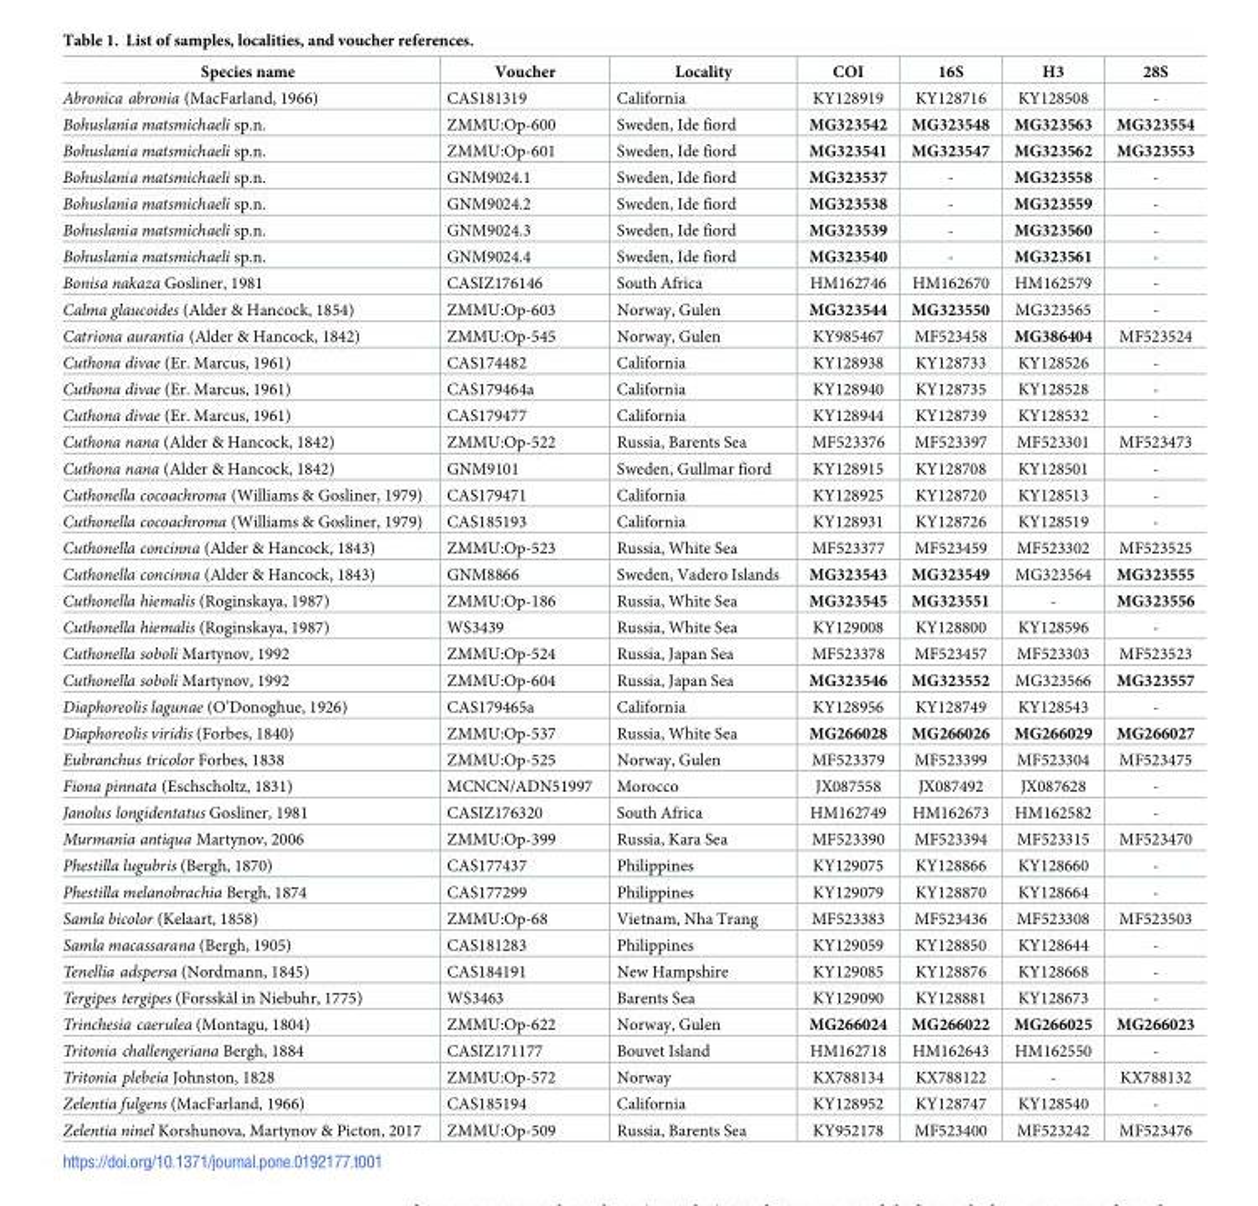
<table><thead><tr><td>Species name</td><td>Voucher</td><td>Locality</td><td>COI</td><td>16S</td><td>H3</td><td>28S</td></tr></thead><tbody><tr><td>Abronica abronia (MacFarland, 1966)</td><td>CAS181319</td><td>California</td><td>KY128919</td><td>KY128716</td><td>KY128508</td><td>-</td></tr><tr><td>Bohuslania matsmichaeli sp.n.</td><td>ZMMU:Op-600</td><td>Sweden, Ide fiord</td><td>MG323542</td><td>MG323548</td><td>MG323563</td><td>MG323554</td></tr><tr><td>Bohuslania matsmichaeli sp.n.</td><td>ZMMU:Op-601</td><td>Sweden, Ide fiord</td><td>MG323541</td><td>MG323547</td><td>MG323562</td><td>MG323553</td></tr><tr><td>Bohuslania matsmichaeli sp.n.</td><td>GNM9024.1</td><td>Sweden, Ide fiord</td><td>MG323537</td><td>-</td><td>MG323558</td><td>-</td></tr><tr><td>Bohuslania matsmichaeli sp.n.</td><td>GNM9024.2</td><td>Sweden, Ide fiord</td><td>MG323538</td><td>-</td><td>MG323559</td><td>-</td></tr><tr><td>Bohuslania matsmichaeli sp.n.</td><td>GNM9024.3</td><td>Sweden, Ide fiord</td><td>MG323539</td><td>-</td><td>MG323560</td><td>-</td></tr><tr><td>Bohuslania matsmichaeli sp.n.</td><td>GNM9024.4</td><td>Sweden, Ide fiord</td><td>MG323540</td><td>-</td><td>MG323561</td><td>-</td></tr><tr><td>Bonisa nakaza Gosliner, 1981</td><td>CASIZ176146</td><td>South Africa</td><td>HM162746</td><td>HM162670</td><td>HM162579</td><td>-</td></tr><tr><td>Calma glaucoides (Alder &amp; Hancock, 1854)</td><td>ZMMU:Op-603</td><td>Norway, Gulen</td><td>MG323544</td><td>MG323550</td><td>MG323565</td><td>-</td></tr><tr><td>Catriona aurantia (Alder &amp; Hancock, 1842)</td><td>ZMMU:Op-545</td><td>Norway, Gulen</td><td>KY985467</td><td>MF523458</td><td>MG386404</td><td>MF523524</td></tr><tr><td>Cuthona divae (Er. Marcus, 1961)</td><td>CAS174482</td><td>California</td><td>KY128938</td><td>KY128733</td><td>KY128526</td><td>-</td></tr><tr><td>Cuthona divae (Er. Marcus, 1961)</td><td>CAS179464a</td><td>California</td><td>KY128940</td><td>KY128735</td><td>KY128528</td><td>-</td></tr><tr><td>Cuthona divae (Er. Marcus, 1961)</td><td>CAS179477</td><td>California</td><td>KY128944</td><td>KY128739</td><td>KY128532</td><td>-</td></tr><tr><td>Cuthona nana (Alder &amp; Hancock, 1842)</td><td>ZMMU:Op-522</td><td>Russia, Barents Sea</td><td>MF523376</td><td>MF523397</td><td>MF523301</td><td>MF523473</td></tr><tr><td>Cuthona nana (Alder &amp; Hancock, 1842)</td><td>GNM9101</td><td>Sweden, Gullmar fiord</td><td>KY128915</td><td>KY128708</td><td>KY128501</td><td>-</td></tr><tr><td>Cuthonella cocoachroma (Williams &amp; Gosliner, 1979)</td><td>CAS179471</td><td>California</td><td>KY128925</td><td>KY128720</td><td>KY128513</td><td>-</td></tr><tr><td>Cuthonella cocoachroma (Williams &amp; Gosliner, 1979)</td><td>CAS185193</td><td>California</td><td>KY128931</td><td>KY128726</td><td>KY128519</td><td>-</td></tr><tr><td>Cuthonella concinna (Alder &amp; Hancock, 1843)</td><td>ZMMU:Op-523</td><td>Russia, White Sea</td><td>MF523377</td><td>MF523459</td><td>MF523302</td><td>MF523525</td></tr><tr><td>Cuthonella concinna (Alder &amp; Hancock, 1843)</td><td>GNM8866</td><td>Sweden, Vadero Islands</td><td>MG323543</td><td>MG323549</td><td>MG323564</td><td>MG323555</td></tr><tr><td>Cuthonella hiemalis (Roginskaya, 1987)</td><td>ZMMU:Op-186</td><td>Russia, White Sea</td><td>MG323545</td><td>MG323551</td><td>-</td><td>MG323556</td></tr><tr><td>Cuthonella hiemalis (Roginskaya, 1987)</td><td>WS3439</td><td>Russia, White Sea</td><td>KY129008</td><td>KY128800</td><td>KY128596</td><td>-</td></tr><tr><td>Cuthonella soboli Martynov, 1992</td><td>ZMMU:Op-524</td><td>Russia, Japan Sea</td><td>MF523378</td><td>MF523457</td><td>MF523303</td><td>MF523523</td></tr><tr><td>Cuthonella soboli Martynov, 1992</td><td>ZMMU:Op-604</td><td>Russia, Japan Sea</td><td>MG323546</td><td>MG323552</td><td>MG323566</td><td>MG323557</td></tr><tr><td>Diaphoreolis lagunae (O’Donoghue, 1926)</td><td>CAS179465a</td><td>California</td><td>KY128956</td><td>KY128749</td><td>KY128543</td><td>-</td></tr><tr><td>Diaphoreolis viridis (Forbes, 1840)</td><td>ZMMU:Op-537</td><td>Russia, White Sea</td><td>MG266028</td><td>MG266026</td><td>MG266029</td><td>MG266027</td></tr><tr><td>Eubranchus tricolor Forbes, 1838</td><td>ZMMU:Op-525</td><td>Norway, Gulen</td><td>MF523379</td><td>MF523399</td><td>MF523304</td><td>MF523475</td></tr><tr><td>Fiona pinnata (Eschscholtz, 1831)</td><td>MCNCN/ADN51997</td><td>Morocco</td><td>JX087558</td><td>JX087492</td><td>JX087628</td><td>-</td></tr><tr><td>Janolus longidentatus Gosliner, 1981</td><td>CASIZ176320</td><td>South Africa</td><td>HM162749</td><td>HM162673</td><td>HM162582</td><td>-</td></tr><tr><td>Murmania antiqua Martynov, 2006</td><td>ZMMU:Op-399</td><td>Russia, Kara Sea</td><td>MF523390</td><td>MF523394</td><td>MF523315</td><td>MF523470</td></tr><tr><td>Phestilla lugubris (Bergh, 1870)</td><td>CAS177437</td><td>Philippines</td><td>KY129075</td><td>KY128866</td><td>KY128660</td><td>-</td></tr><tr><td>Phestilla melanobrachia Bergh, 1874</td><td>CAS177299</td><td>Philippines</td><td>KY129079</td><td>KY128870</td><td>KY128664</td><td>-</td></tr><tr><td>Samla bicolor (Kelaart, 1858)</td><td>ZMMU:Op-68</td><td>Vietnam, Nha Trang</td><td>MF523383</td><td>MF523436</td><td>MF523308</td><td>MF523503</td></tr><tr><td>Samla macassarana (Bergh, 1905)</td><td>CAS181283</td><td>Philippines</td><td>KY129059</td><td>KY128850</td><td>KY128644</td><td>-</td></tr><tr><td>Tenellia adspersa (Nordmann, 1845)</td><td>CAS184191</td><td>New Hampshire</td><td>KY129085</td><td>KY128876</td><td>KY128668</td><td>-</td></tr><tr><td>Tergipes tergipes (Forsskål in Niebuhr, 1775)</td><td>WS3463</td><td>Barents Sea</td><td>KY129090</td><td>KY128881</td><td>KY128673</td><td>-</td></tr><tr><td>Trinchesia caerulea (Montagu, 1804)</td><td>ZMMU:Op-622</td><td>Norway, Gulen</td><td>MG266024</td><td>MG266022</td><td>MG266025</td><td>MG266023</td></tr><tr><td>Tritonia challengeriana Bergh, 1884</td><td>CASIZ171177</td><td>Bouvet Island</td><td>HM162718</td><td>HM162643</td><td>HM162550</td><td>-</td></tr><tr><td>Tritonia plebeia Johnston, 1828</td><td>ZMMU:Op-572</td><td>Norway</td><td>KX788134</td><td>KX788122</td><td>-</td><td>KX788132</td></tr><tr><td>Zelentia fulgens (MacFarland, 1966)</td><td>CAS185194</td><td>California</td><td>KY128952</td><td>KY128747</td><td>KY128540</td><td>-</td></tr><tr><td>Zelentia ninel Korshunova, Martynov &amp; Picton, 2017</td><td>ZMMU:Op-509</td><td>Russia, Barents Sea</td><td>KY952178</td><td>MF523400</td><td>MF523242</td><td>MF523476</td></tr></tbody></table>